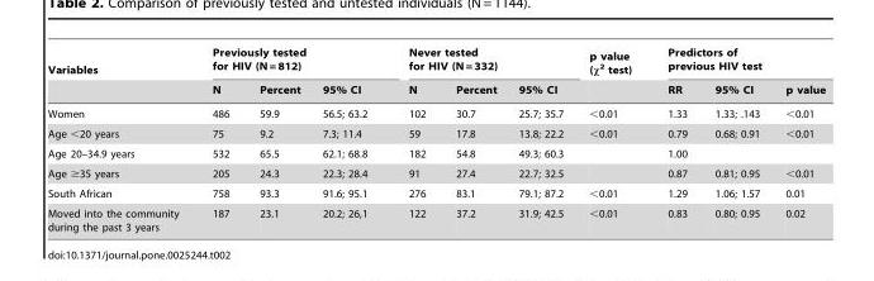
<table><thead><tr><td rowspan="2">Variables</td><td colspan="3">Previously tested for HIV (N = 812)</td><td colspan="3">Never tested for HIV (N = 332)</td><td rowspan="2">p value (χ<sup>2</sup> test)</td><td colspan="3">Predictors of previous HIV test</td></tr><tr><td>N</td><td>Percent</td><td>95% CI</td><td>N</td><td>Percent</td><td>95% CI</td><td>RR</td><td>95% CI</td><td>p value</td></tr></thead><tbody><tr><td>Women</td><td>486</td><td>59.9</td><td>56.5; 63.2</td><td>102</td><td>30.7</td><td>25.7; 35.7</td><td>&lt;0.01</td><td>1.33</td><td>1.33; .143</td><td>&lt;0.01</td></tr><tr><td>Age &lt;20 years</td><td>75</td><td>9.2</td><td>7.3; 11.4</td><td>59</td><td>17.8</td><td>13.8; 22.2</td><td>&lt;0.01</td><td>0.79</td><td>0.68; 0.91</td><td>&lt;0.01</td></tr><tr><td>Age 20–34.9 years</td><td>532</td><td>65.5</td><td>62.1; 68.8</td><td>182</td><td>54.8</td><td>49.3; 60.3</td><td></td><td>1.00</td><td></td><td></td></tr><tr><td>Age ≥35 years</td><td>205</td><td>24.3</td><td>22.3; 28.4</td><td>91</td><td>27.4</td><td>22.7; 32.5</td><td></td><td>0.87</td><td>0.81; 0.95</td><td>&lt;0.01</td></tr><tr><td>South African</td><td>758</td><td>93.3</td><td>91.6; 95.1</td><td>276</td><td>83.1</td><td>79.1; 87.2</td><td>&lt;0.01</td><td>1.29</td><td>1.06; 1.57</td><td>0.01</td></tr><tr><td>Moved into the community during the past 3 years</td><td>187</td><td>23.1</td><td>20.2; 26,1</td><td>122</td><td>37.2</td><td>31.9; 42.5</td><td>&lt;0.01</td><td>0.83</td><td>0.80; 0.95</td><td>0.02</td></tr></tbody></table>